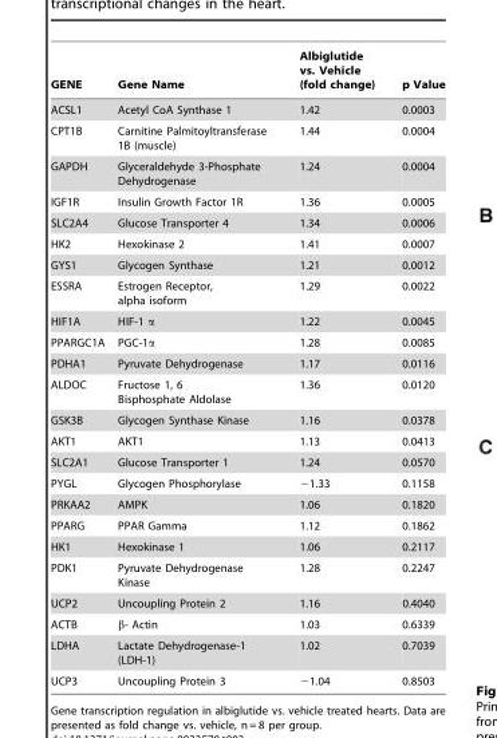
<table><thead><tr><td>GENE</td><td>Gene Name</td><td>Albiglutide vs. Vehicle (fold change)</td><td>p Value</td></tr></thead><tbody><tr><td>ACSL1</td><td>Acetyl CoA Synthase 1</td><td>1.42</td><td>0.0003</td></tr><tr><td>CPT1B</td><td>Carnitine Palmitoyltransferase 1B (muscle)</td><td>1.44</td><td>0.0004</td></tr><tr><td>GAPDH</td><td>Glyceraldehyde 3-Phosphate Dehydrogenase</td><td>1.24</td><td>0.0004</td></tr><tr><td>IGF1R</td><td>Insulin Growth Factor 1R</td><td>1.36</td><td>0.0005</td></tr><tr><td>SLC2A4</td><td>Glucose Transporter 4</td><td>1.34</td><td>0.0006</td></tr><tr><td>HK2</td><td>Hexokinase 2</td><td>1.41</td><td>0.0007</td></tr><tr><td>GYS1</td><td>Glycogen Synthase</td><td>1.21</td><td>0.0012</td></tr><tr><td>ESSRA</td><td>Estrogen Receptor, alpha isoform</td><td>1.29</td><td>0.0022</td></tr><tr><td>HIF1A</td><td>HIF-1 α</td><td>1.22</td><td>0.0045</td></tr><tr><td>PPARGC1A</td><td>PGC-1α</td><td>1.28</td><td>0.0085</td></tr><tr><td>PDHA1</td><td>Pyruvate Dehydrogenase</td><td>1.17</td><td>0.0116</td></tr><tr><td>ALDOC</td><td>Fructose 1, 6 Bisphosphate Aldolase</td><td>1.36</td><td>0.0120</td></tr><tr><td>GSK3B</td><td>Glycogen Synthase Kinase</td><td>1.16</td><td>0.0378</td></tr><tr><td>AKT1</td><td>AKT1</td><td>1.13</td><td>0.0413</td></tr><tr><td>SLC2A1</td><td>Glucose Transporter 1</td><td>1.24</td><td>0.0570</td></tr><tr><td>PYGL</td><td>Glycogen Phosphorylase</td><td>−1.33</td><td>0.1158</td></tr><tr><td>PRKAA2</td><td>AMPK</td><td>1.06</td><td>0.1820</td></tr><tr><td>PPARG</td><td>PPAR Gamma</td><td>1.12</td><td>0.1862</td></tr><tr><td>HK1</td><td>Hexokinase 1</td><td>1.06</td><td>0.2117</td></tr><tr><td>PDK1</td><td>Pyruvate Dehydrogenase Kinase</td><td>1.28</td><td>0.2247</td></tr><tr><td>UCP2</td><td>Uncoupling Protein 2</td><td>1.16</td><td>0.4040</td></tr><tr><td>ACTB</td><td>β- Actin</td><td>1.03</td><td>0.6339</td></tr><tr><td>LDHA</td><td>Lactate Dehydrogenase-1 (LDH-1)</td><td>1.02</td><td>0.7039</td></tr><tr><td>UCP3</td><td>Uncoupling Protein 3</td><td>−1.04</td><td>0.8503</td></tr></tbody></table>